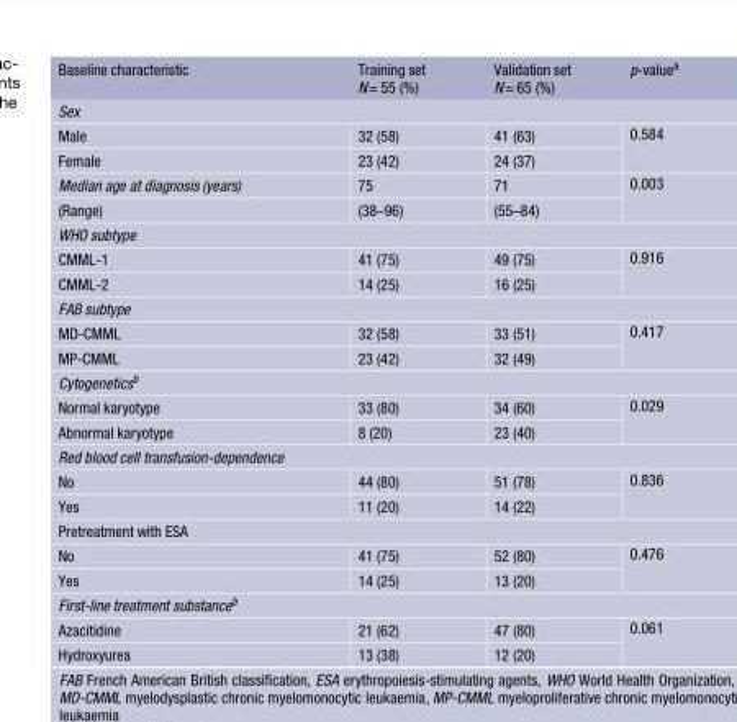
<table><thead><tr><td>Baseline characteristic</td><td>Training set N= 55 (%)</td><td>Validation set N= 65 (%)</td><td>p-value<sup>a</sup></td></tr></thead><tbody><tr><td colspan="4">Sex</td></tr><tr><td>Male</td><td>32 (58)</td><td>41 (63)</td><td rowspan="2">0.584</td></tr><tr><td>Female</td><td>23 (42)</td><td>24 (37)</td></tr><tr><td>Median age at diagnosis (years)</td><td>75</td><td>71</td><td rowspan="2">0.003</td></tr><tr><td>(Range)</td><td>(38–96)</td><td>(55–84)</td></tr><tr><td colspan="4">WHO subtype</td></tr><tr><td>CMML-1</td><td>41 (75)</td><td>49 (75)</td><td rowspan="2">0.916</td></tr><tr><td>CMML-2</td><td>14 (25)</td><td>16 (25)</td></tr><tr><td colspan="4">FAB subtype</td></tr><tr><td>MD-CMML</td><td>32 (58)</td><td>33 (51)</td><td rowspan="2">0.417</td></tr><tr><td>MP-CMML</td><td>23 (42)</td><td>32 (49)</td></tr><tr><td colspan="4">Cytogenetics<sup>b</sup></td></tr><tr><td>Normal karyotype</td><td>33 (80)</td><td>34 (60)</td><td rowspan="2">0.029</td></tr><tr><td>Abnormal karyotype</td><td>8 (20)</td><td>23 (40)</td></tr><tr><td colspan="4">Red blood cell transfusion-dependence</td></tr><tr><td>No</td><td>44 (80)</td><td>51 (78)</td><td rowspan="2">0.836</td></tr><tr><td>Yes</td><td>11 (20)</td><td>14 (22)</td></tr><tr><td colspan="4">Pretreatment with ESA</td></tr><tr><td>No</td><td>41 (75)</td><td>52 (80)</td><td rowspan="2">0.476</td></tr><tr><td>Yes</td><td>14 (25)</td><td>13 (20)</td></tr><tr><td colspan="4">First-line treatment substance<sup>b</sup></td></tr><tr><td>Azacitidine</td><td>21 (62)</td><td>47 (80)</td><td rowspan="2">0.061</td></tr><tr><td>Hydroxyurea</td><td>13 (38)</td><td>12 (20)</td></tr></tbody></table>